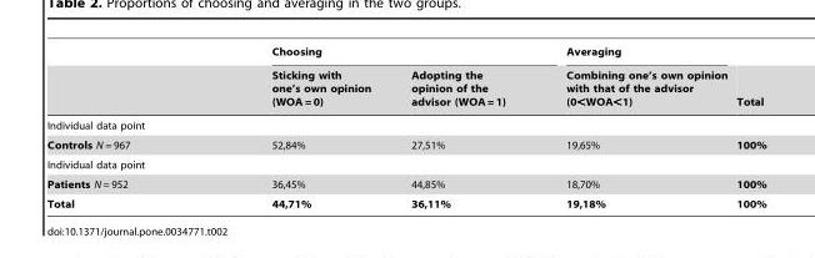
<table><thead><tr><td rowspan="2"></td><td colspan="2">Choosing</td><td rowspan="2">Averaging Combining one’s own opinion with that of the advisor (0&lt;WOA&lt;1)</td><td rowspan="2">Total</td></tr><tr><td>Sticking with one’s own opinion (WOA = 0)</td><td>Adopting the opinion of the advisor (WOA = 1)</td></tr></thead><tbody><tr><td colspan="5">Individual data point</td></tr><tr><td>Controls N = 967</td><td>52,84%</td><td>27,51%</td><td>19,65%</td><td>100%</td></tr><tr><td colspan="5">Individual data point</td></tr><tr><td>Patients N = 952</td><td>36,45%</td><td>44,85%</td><td>18,70%</td><td>100%</td></tr><tr><td>Total</td><td>44,71%</td><td>36,11%</td><td>19,18%</td><td>100%</td></tr></tbody></table>